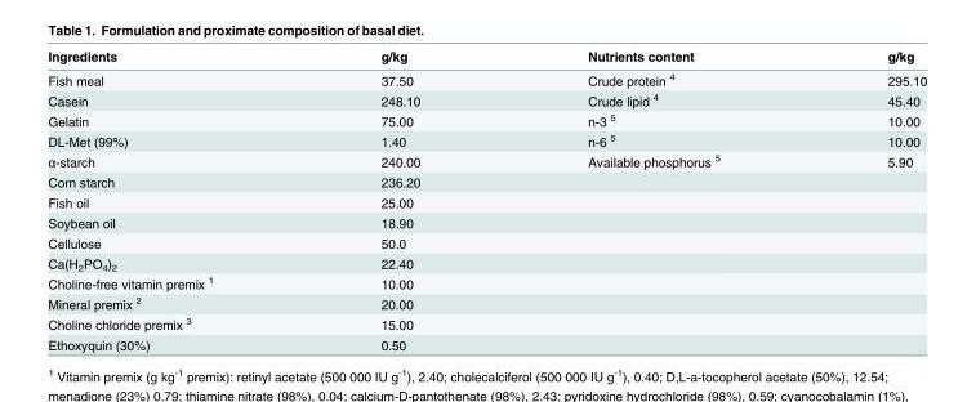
<table><thead><tr><td>Ingredients</td><td>g/kg</td><td>Nutrients content</td><td>g/kg</td></tr></thead><tbody><tr><td>Fish meal</td><td>37.50</td><td>Crude protein <sup>4</sup></td><td>295.10</td></tr><tr><td>Casein</td><td>248.10</td><td>Crude lipid <sup>4</sup></td><td>45.40</td></tr><tr><td>Gelatin</td><td>75.00</td><td>n-3 <sup>5</sup></td><td>10.00</td></tr><tr><td>DL-Met (99%)</td><td>1.40</td><td>n-6 <sup>5</sup></td><td>10.00</td></tr><tr><td>α-starch</td><td>240.00</td><td>Available phosphorus <sup>5</sup></td><td>5.90</td></tr><tr><td>Corn starch</td><td>236.20</td><td></td><td></td></tr><tr><td>Fish oil</td><td>25.00</td><td></td><td></td></tr><tr><td>Soybean oil</td><td>18.90</td><td></td><td></td></tr><tr><td>Cellulose</td><td>50.0</td><td></td><td></td></tr><tr><td>Ca(H<sub>2</sub>PO<sub>4</sub>)<sub>2</sub></td><td>22.40</td><td></td><td></td></tr><tr><td>Choline-free vitamin premix <sup>1</sup></td><td>10.00</td><td></td><td></td></tr><tr><td>Mineral premix <sup>2</sup></td><td>20.00</td><td></td><td></td></tr><tr><td>Choline chloride premix <sup>3</sup></td><td>15.00</td><td></td><td></td></tr><tr><td>Ethoxyquin (30%)</td><td>0.50</td><td></td><td></td></tr></tbody></table>